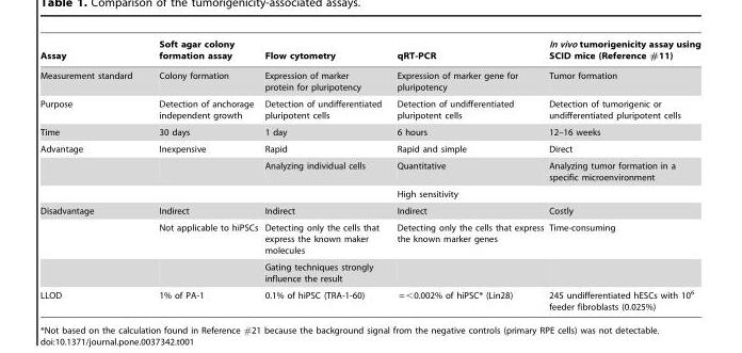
<table><thead><tr><td>Assay</td><td>Soft agar colony formation assay</td><td>Flow cytometry</td><td>qRT-PCR</td><td>In vivo tumorigenicity assay using SCID mice (Reference #11)</td></tr></thead><tbody><tr><td>Measurement standard</td><td>Colony formation</td><td>Expression of marker protein for pluripotency</td><td>Expression of marker gene for pluripotency</td><td>Tumor formation</td></tr><tr><td>Purpose</td><td>Detection of anchorage independent growth</td><td>Detection of undifferentiated pluripotent cells</td><td>Detection of undifferentiated pluripotent cells</td><td>Detection of tumorigenic or undifferentiated pluripotent cells</td></tr><tr><td>Time</td><td>30 days</td><td>1 day</td><td>6 hours</td><td>12–16 weeks</td></tr><tr><td rowspan="3">Advantage</td><td>Inexpensive</td><td>Rapid</td><td>Rapid and simple</td><td>Direct</td></tr><tr><td></td><td>Analyzing individual cells</td><td>Quantitative</td><td>Analyzing tumor formation in a specific microenvironment</td></tr><tr><td></td><td></td><td>High sensitivity</td><td></td></tr><tr><td rowspan="3">Disadvantage</td><td>Indirect</td><td>Indirect</td><td>Indirect</td><td>Costly</td></tr><tr><td>Not applicable to hiPSCs</td><td>Detecting only the cells that express the known maker molecules</td><td>Detecting only the cells that express the known marker genes</td><td>Time-consuming</td></tr><tr><td></td><td>Gating techniques strongly influence the result</td><td></td><td></td></tr><tr><td>LLOD</td><td>1% of PA-1</td><td>0.1% of hiPSC (TRA-1-60)</td><td>= &lt;0.002% of hiPSC* (Lin28)</td><td>245 undifferentiated hESCs with 10<sup>6</sup> feeder fibroblasts (0.025%)</td></tr></tbody></table>